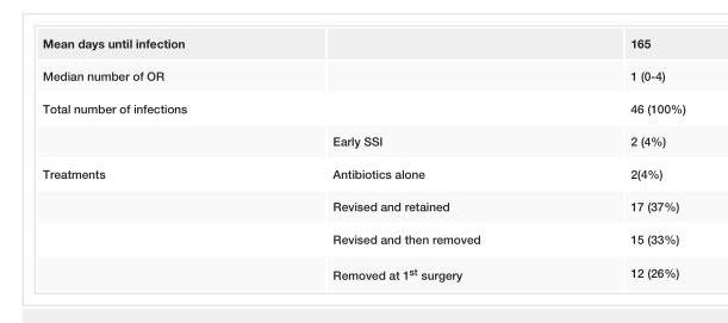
<table><tbody><tr><td>Mean days until infection</td><td></td><td>165</td></tr><tr><td>Median number of OR</td><td></td><td>1 (0-4)</td></tr><tr><td rowspan="2">Total number of infections</td><td></td><td>46 (100%)</td></tr><tr><td>Early SSI</td><td>2 (4%)</td></tr><tr><td rowspan="4">Treatments</td><td>Antibiotics alone</td><td>2(4%)</td></tr><tr><td>Revised and retained</td><td>17 (37%)</td></tr><tr><td>Revised and then removed</td><td>15 (33%)</td></tr><tr><td>Removed at 1<sup>st</sup> surgery</td><td>12 (26%)</td></tr></tbody></table>